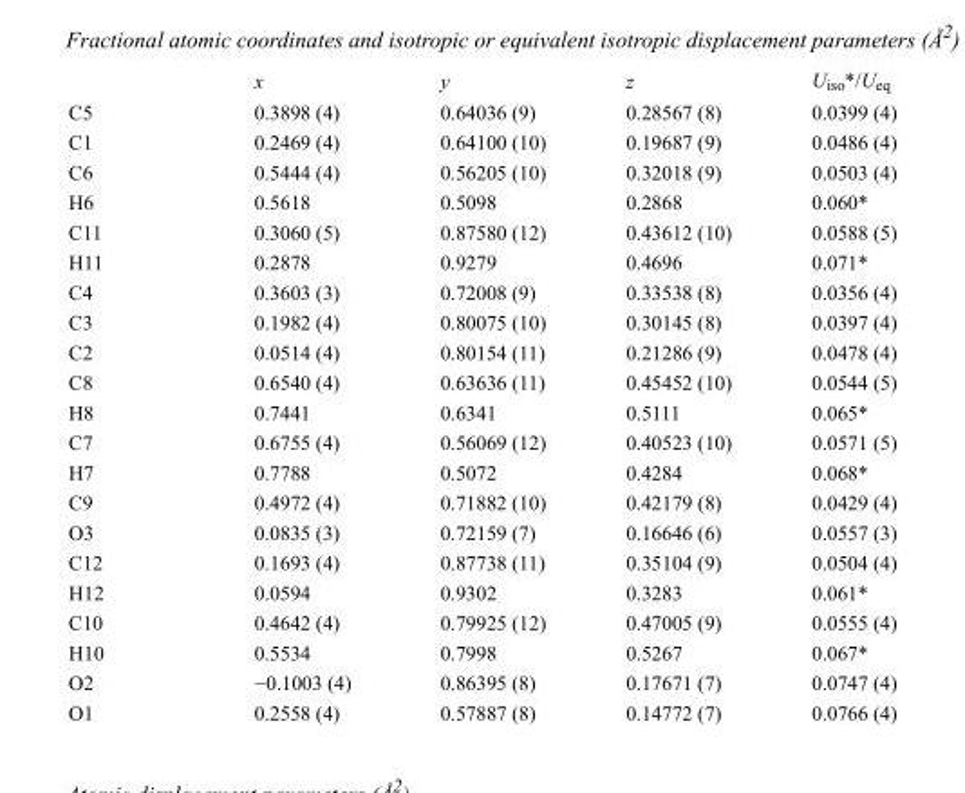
<table><thead><tr><td></td><td>x</td><td>y</td><td>z</td><td>U<sub>iso</sub>*/U<sub>eq</sub></td></tr></thead><tbody><tr><td>C5</td><td>0.3898 (4)</td><td>0.64036 (9)</td><td>0.28567 (8)</td><td>0.0399 (4)</td></tr><tr><td>C1</td><td>0.2469 (4)</td><td>0.64100 (10)</td><td>0.19687 (9)</td><td>0.0486 (4)</td></tr><tr><td>C6</td><td>0.5444 (4)</td><td>0.56205 (10)</td><td>0.32018 (9)</td><td>0.0503 (4)</td></tr><tr><td>H6</td><td>0.5618</td><td>0.5098</td><td>0.2868</td><td>0.060*</td></tr><tr><td>C11</td><td>0.3060 (5)</td><td>0.87580 (12)</td><td>0.43612 (10)</td><td>0.0588 (5)</td></tr><tr><td>H11</td><td>0.2878</td><td>0.9279</td><td>0.4696</td><td>0.071*</td></tr><tr><td>C4</td><td>0.3603 (3)</td><td>0.72008 (9)</td><td>0.33538 (8)</td><td>0.0356 (4)</td></tr><tr><td>C3</td><td>0.1982 (4)</td><td>0.80075 (10)</td><td>0.30145 (8)</td><td>0.0397 (4)</td></tr><tr><td>C2</td><td>0.0514 (4)</td><td>0.80154 (11)</td><td>0.21286 (9)</td><td>0.0478 (4)</td></tr><tr><td>C8</td><td>0.6540 (4)</td><td>0.63636 (11)</td><td>0.45452 (10)</td><td>0.0544 (5)</td></tr><tr><td>H8</td><td>0.7441</td><td>0.6341</td><td>0.5111</td><td>0.065*</td></tr><tr><td>C7</td><td>0.6755 (4)</td><td>0.56069 (12)</td><td>0.40523 (10)</td><td>0.0571 (5)</td></tr><tr><td>H7</td><td>0.7788</td><td>0.5072</td><td>0.4284</td><td>0.068*</td></tr><tr><td>C9</td><td>0.4972 (4)</td><td>0.71882 (10)</td><td>0.42179 (8)</td><td>0.0429 (4)</td></tr><tr><td>O3</td><td>0.0835 (3)</td><td>0.72159 (7)</td><td>0.16646 (6)</td><td>0.0557 (3)</td></tr><tr><td>C12</td><td>0.1693 (4)</td><td>0.87738 (11)</td><td>0.35104 (9)</td><td>0.0504 (4)</td></tr><tr><td>H12</td><td>0.0594</td><td>0.9302</td><td>0.3283</td><td>0.061*</td></tr><tr><td>C10</td><td>0.4642 (4)</td><td>0.79925 (12)</td><td>0.47005 (9)</td><td>0.0555 (4)</td></tr><tr><td>H10</td><td>0.5534</td><td>0.7998</td><td>0.5267</td><td>0.067*</td></tr><tr><td>O2</td><td>−0.1003 (4)</td><td>0.86395 (8)</td><td>0.17671 (7)</td><td>0.0747 (4)</td></tr><tr><td>O1</td><td>0.2558 (4)</td><td>0.57887 (8)</td><td>0.14772 (7)</td><td>0.0766 (4)</td></tr></tbody></table>